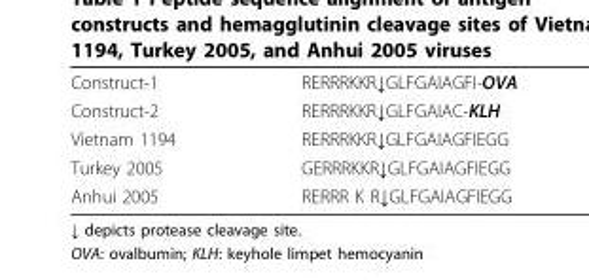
<table><tbody><tr><td>Construct-1</td><td>RERRRKKR↓GLFGAIAGFI-OVA</td></tr><tr><td>Construct-2</td><td>RERRRKKR↓GLFGAIAC-KLH</td></tr><tr><td>Vietnam 1194</td><td>RERRRKKR↓GLFGAIAGFIEGG</td></tr><tr><td>Turkey 2005</td><td>GERRRKKR↓GLFGAIAGFIEGG</td></tr><tr><td>Anhui 2005</td><td>RERRR K R↓GLFGAIAGFIEGG</td></tr></tbody></table>